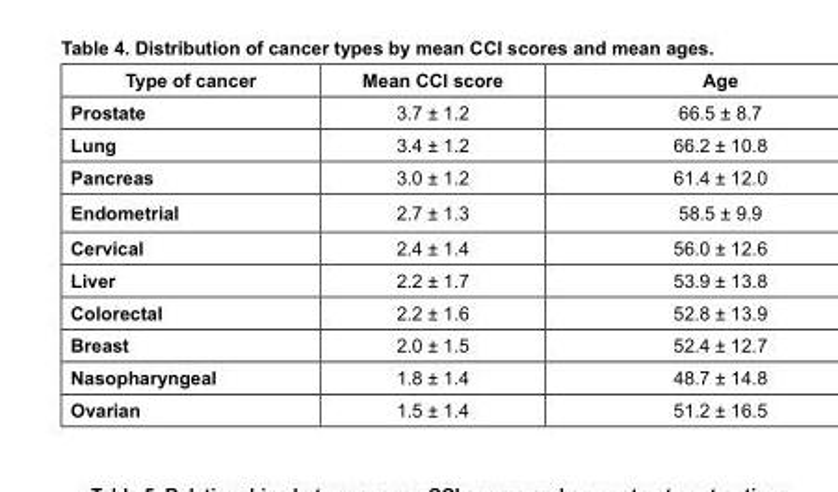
<table><thead><tr><td>Type of cancer</td><td>Mean CCI score</td><td>Age</td></tr></thead><tbody><tr><td>Prostate</td><td>3.7 ± 1.2</td><td>66.5 ± 8.7</td></tr><tr><td>Lung</td><td>3.4 ± 1.2</td><td>66.2 ± 10.8</td></tr><tr><td>Pancreas</td><td>3.0 ± 1.2</td><td>61.4 ± 12.0</td></tr><tr><td>Endometrial</td><td>2.7 ± 1.3</td><td>58.5 ± 9.9</td></tr><tr><td>Cervical</td><td>2.4 ± 1.4</td><td>56.0 ± 12.6</td></tr><tr><td>Liver</td><td>2.2 ± 1.7</td><td>53.9 ± 13.8</td></tr><tr><td>Colorectal</td><td>2.2 ± 1.6</td><td>52.8 ± 13.9</td></tr><tr><td>Breast</td><td>2.0 ± 1.5</td><td>52.4 ± 12.7</td></tr><tr><td>Nasopharyngeal</td><td>1.8 ± 1.4</td><td>48.7 ± 14.8</td></tr><tr><td>Ovarian</td><td>1.5 ± 1.4</td><td>51.2 ± 16.5</td></tr></tbody></table>